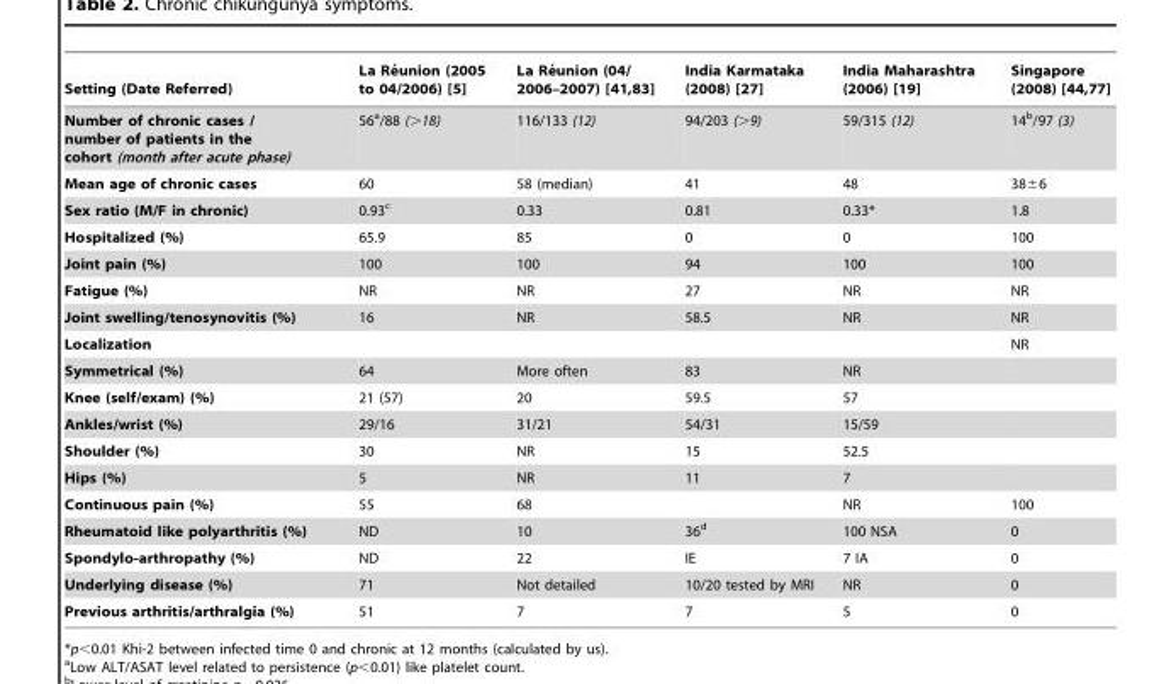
<table><thead><tr><td>Setting (Date Referred)</td><td>La Re´union (2005 to 04/2006) [5]</td><td>La Re´union (04/ 2006–2007) [41,83]</td><td>India Karmataka (2008) [27]</td><td>India Maharashtra (2006) [19]</td><td>Singapore (2008) [44,77]</td></tr></thead><tbody><tr><td>Number of chronic cases / number of patients in the cohort (month after acute phase)</td><td>56<sup>a</sup>/88 (&gt;18)</td><td>116/133 (12)</td><td>94/203 (&gt;9)</td><td>59/315 (12)</td><td>14<sup>b</sup>/97 (3)</td></tr><tr><td>Mean age of chronic cases</td><td>60</td><td>58 (median)</td><td>41</td><td>48</td><td>38±6</td></tr><tr><td>Sex ratio (M/F in chronic)</td><td>0.93<sup>c</sup></td><td>0.33</td><td>0.81</td><td>0.33*</td><td>1.8</td></tr><tr><td>Hospitalized (%)</td><td>65.9</td><td>85</td><td>0</td><td>0</td><td>100</td></tr><tr><td>Joint pain (%)</td><td>100</td><td>100</td><td>94</td><td>100</td><td>100</td></tr><tr><td>Fatigue (%)</td><td>NR</td><td>NR</td><td>27</td><td>NR</td><td>NR</td></tr><tr><td>Joint swelling/tenosynovitis (%)</td><td>16</td><td>NR</td><td>58.5</td><td>NR</td><td>NR</td></tr><tr><td>Localization</td><td></td><td></td><td></td><td></td><td>NR</td></tr><tr><td>Symmetrical (%)</td><td>64</td><td>More often</td><td>83</td><td>NR</td><td></td></tr><tr><td>Knee (self/exam) (%)</td><td>21 (57)</td><td>20</td><td>59.5</td><td>57</td><td></td></tr><tr><td>Ankles/wrist (%)</td><td>29/16</td><td>31/21</td><td>54/31</td><td>15/59</td><td></td></tr><tr><td>Shoulder (%)</td><td>30</td><td>NR</td><td>15</td><td>52.5</td><td></td></tr><tr><td>Hips (%)</td><td>5</td><td>NR</td><td>11</td><td>7</td><td></td></tr><tr><td>Continuous pain (%)</td><td>55</td><td>68</td><td></td><td>NR</td><td>100</td></tr><tr><td>Rheumatoid like polyarthritis (%)</td><td>ND</td><td>10</td><td>36<sup>d</sup></td><td>100 NSA</td><td>0</td></tr><tr><td>Spondylo-arthropathy (%)</td><td>ND</td><td>22</td><td>IE</td><td>7 IA</td><td>0</td></tr><tr><td>Underlying disease (%)</td><td>71</td><td>Not detailed</td><td>10/20 tested by MRI</td><td>NR</td><td>0</td></tr><tr><td>Previous arthritis/arthralgia (%)</td><td>51</td><td>7</td><td>7</td><td>5</td><td>0</td></tr></tbody></table>